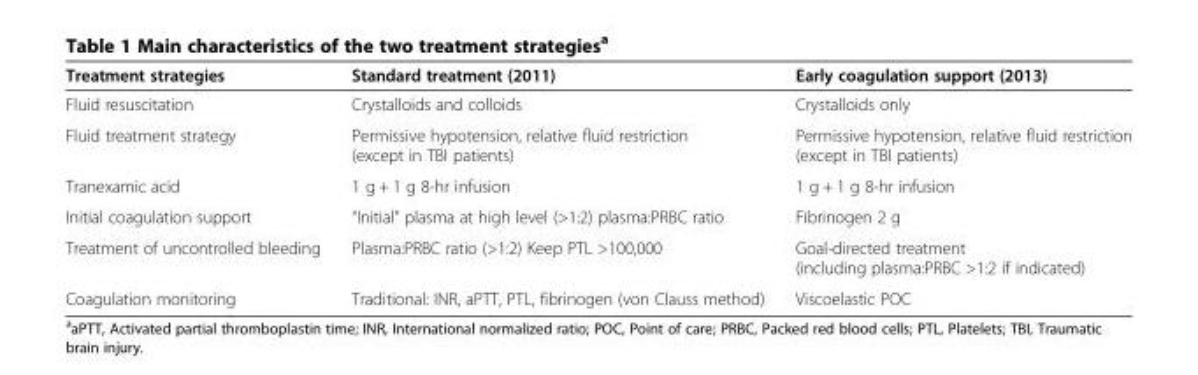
<table><thead><tr><td>Treatment strategies</td><td>Standard treatment (2011)</td><td>Early coagulation support (2013)</td></tr></thead><tbody><tr><td>Fluid resuscitation</td><td>Crystalloids and colloids</td><td>Crystalloids only</td></tr><tr><td>Fluid treatment strategy</td><td>Permissive hypotension, relative fluid restriction (except in TBI patients)</td><td>Permissive hypotension, relative fluid restriction (except in TBI patients)</td></tr><tr><td>Tranexamic acid</td><td>1 g + 1 g 8-hr infusion</td><td>1 g + 1 g 8-hr infusion</td></tr><tr><td>Initial coagulation support</td><td>“Initial” plasma at high level (&gt;1:2) plasma:PRBC ratio</td><td>Fibrinogen 2 g</td></tr><tr><td>Treatment of uncontrolled bleeding</td><td>Plasma:PRBC ratio (&gt;1:2) Keep PTL &gt;100,000</td><td>Goal-directed treatment (including plasma:PRBC &gt;1:2 if indicated)</td></tr><tr><td>Coagulation monitoring</td><td>Traditional: INR, aPTT, PTL, fibrinogen (von Clauss method)</td><td>Viscoelastic POC</td></tr></tbody></table>